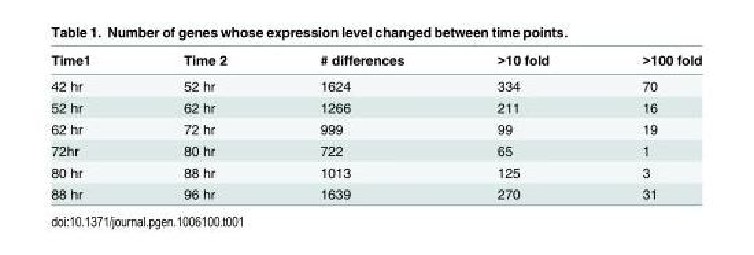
<table><thead><tr><td>Time1</td><td>Time 2</td><td># differences</td><td>&gt;10 fold</td><td>&gt;100 fold</td></tr></thead><tbody><tr><td>42 hr</td><td>52 hr</td><td>1624</td><td>334</td><td>70</td></tr><tr><td>52 hr</td><td>62 hr</td><td>1266</td><td>211</td><td>16</td></tr><tr><td>62 hr</td><td>72 hr</td><td>999</td><td>99</td><td>19</td></tr><tr><td>72hr</td><td>80 hr</td><td>722</td><td>65</td><td>1</td></tr><tr><td>80 hr</td><td>88 hr</td><td>1013</td><td>125</td><td>3</td></tr><tr><td>88 hr</td><td>96 hr</td><td>1639</td><td>270</td><td>31</td></tr></tbody></table>